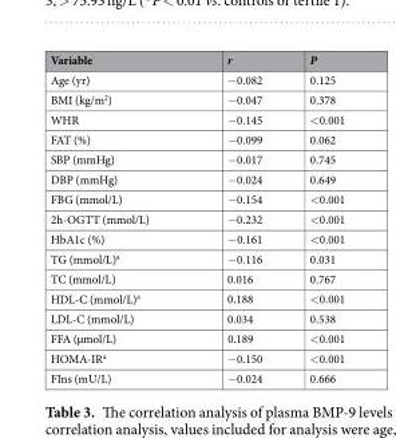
<table><thead><tr><td>Variable</td><td>r</td><td>P</td></tr></thead><tbody><tr><td>Age (yr)</td><td>−0.082</td><td>0.125</td></tr><tr><td>BMI (kg/m<sup>2</sup>)</td><td>−0.047</td><td>0.378</td></tr><tr><td>WHR</td><td>−0.145</td><td>&lt;0.001</td></tr><tr><td>FAT (%)</td><td>−0.099</td><td>0.062</td></tr><tr><td>SBP (mmHg)</td><td>−0.017</td><td>0.745</td></tr><tr><td>DBP (mmHg)</td><td>−0.024</td><td>0.649</td></tr><tr><td>FBG (mmol/L)</td><td>−0.154</td><td>&lt;0.001</td></tr><tr><td>2h-OGTT (mmol/L)</td><td>−0.232</td><td>&lt;0.001</td></tr><tr><td>HbA1c (%)</td><td>−0.161</td><td>&lt;0.001</td></tr><tr><td>TG (mmol/L)<sup>a</sup></td><td>−0.116</td><td>0.031</td></tr><tr><td>TC (mmol/L)</td><td>0.016</td><td>0.767</td></tr><tr><td>HDL-C (mmol/L)<sup>a</sup></td><td>0.188</td><td>&lt;0.001</td></tr><tr><td>LDL-C (mmol/L)</td><td>0.034</td><td>0.538</td></tr><tr><td>FFA (µmol/L)</td><td>0.189</td><td>&lt;0.001</td></tr><tr><td>HOMA-IR<sup>a</sup></td><td>−0.150</td><td>&lt;0.001</td></tr><tr><td>FIns (mU/L)</td><td>−0.024</td><td>0.666</td></tr></tbody></table>